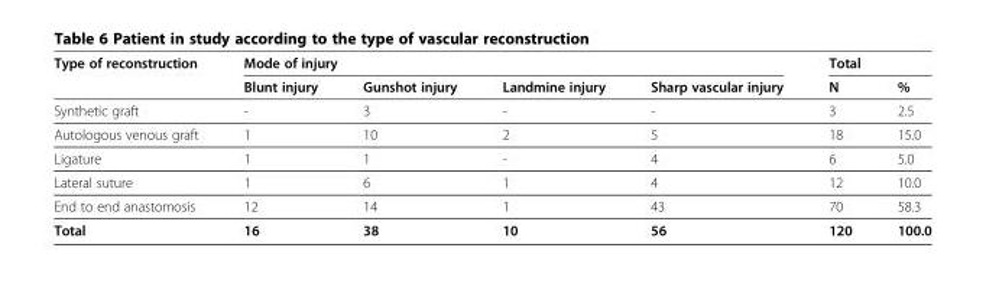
<table><thead><tr><td rowspan="2">Type of reconstruction</td><td colspan="4">Mode of injury</td><td colspan="2">Total</td></tr><tr><td>Blunt injury</td><td>Gunshot injury</td><td>Landmine injury</td><td>Sharp vascular injury</td><td>N</td><td>%</td></tr></thead><tbody><tr><td>Synthetic graft</td><td>-</td><td>3</td><td>-</td><td>-</td><td>3</td><td>2.5</td></tr><tr><td>Autologous venous graft</td><td>1</td><td>10</td><td>2</td><td>5</td><td>18</td><td>15.0</td></tr><tr><td>Ligature</td><td>1</td><td>1</td><td>-</td><td>4</td><td>6</td><td>5.0</td></tr><tr><td>Lateral suture</td><td>1</td><td>6</td><td>1</td><td>4</td><td>12</td><td>10.0</td></tr><tr><td>End to end anastomosis</td><td>12</td><td>14</td><td>1</td><td>43</td><td>70</td><td>58.3</td></tr><tr><td>Total</td><td>16</td><td>38</td><td>10</td><td>56</td><td>120</td><td>100.0</td></tr></tbody></table>